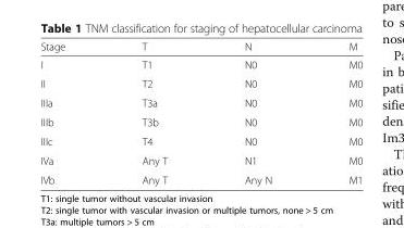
<table><thead><tr><td>Stage</td><td>T</td><td>N</td><td>M</td></tr></thead><tbody><tr><td>I</td><td>T1</td><td>N0</td><td>M0</td></tr><tr><td>II</td><td>T2</td><td>N0</td><td>M0</td></tr><tr><td>IIIa</td><td>T3a</td><td>N0</td><td>M0</td></tr><tr><td>IIIb</td><td>T3b</td><td>N0</td><td>M0</td></tr><tr><td>IIIc</td><td>T4</td><td>N0</td><td>M0</td></tr><tr><td>IVa</td><td>Any T</td><td>N1</td><td>M0</td></tr><tr><td>IVb</td><td>Any T</td><td>Any N</td><td>M1</td></tr></tbody></table>